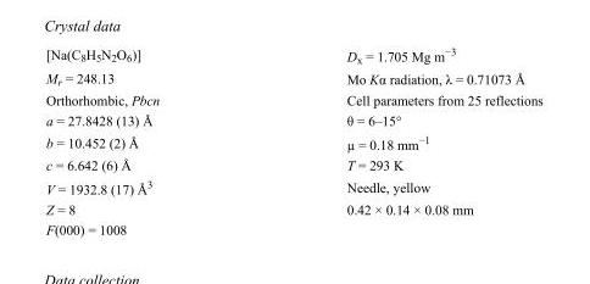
<table><tbody><tr><td>[Na(C<sub>8</sub>H<sub>5</sub>N<sub>2</sub>O<sub>6</sub>)]</td><td>D<sub>x</sub> = 1.705 Mg m<sup>−3</sup></td></tr><tr><td>M<sub>r</sub> = 248.13</td><td>Mo Kα radiation, λ = 0.71073 Å</td></tr><tr><td>Orthorhombic, Pbcn</td><td>Cell parameters from 25 reflections</td></tr><tr><td>a = 27.8428 (13) Å</td><td>θ = 6–15°</td></tr><tr><td>b = 10.452 (2) Å</td><td>µ = 0.18 mm<sup>−1</sup></td></tr><tr><td>c = 6.642 (6) Å</td><td>T = 293 K</td></tr><tr><td>V = 1932.8 (17) Å<sup>3</sup></td><td>Needle, yellow</td></tr><tr><td>Z = 8</td><td>0.42 × 0.14 × 0.08 mm</td></tr><tr><td>F(000) = 1008</td><td></td></tr></tbody></table>